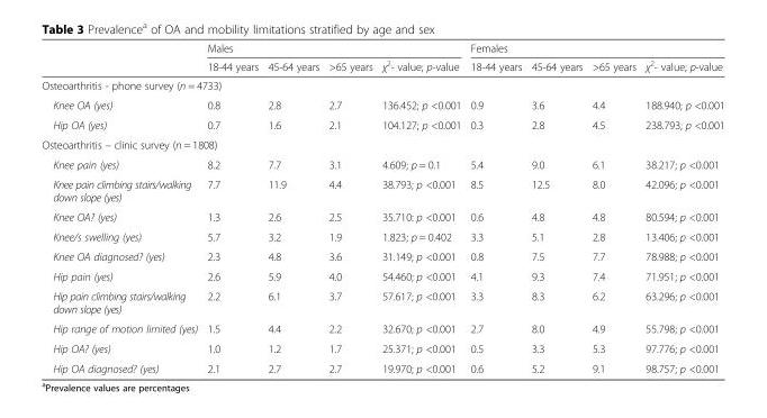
<table><thead><tr><td rowspan="2"></td><td colspan="4">Males</td><td colspan="4">Females</td></tr><tr><td>18-44 years</td><td>45-64 years</td><td>&gt;65 years</td><td>χ<sup>2</sup>- value; p-value</td><td>18-44 years</td><td>45-64 years</td><td>&gt;65 years</td><td>χ<sup>2</sup>- value; p-value</td></tr></thead><tbody><tr><td colspan="9">Osteoarthritis - phone survey (n = 4733)</td></tr><tr><td>Knee OA (yes)</td><td>0.8</td><td>2.8</td><td>2.7</td><td>136.452; p &lt;0.001</td><td>0.9</td><td>3.6</td><td>4.4</td><td>188.940; p &lt;0.001</td></tr><tr><td>Hip OA (yes)</td><td>0.7</td><td>1.6</td><td>2.1</td><td>104.127; p &lt;0.001</td><td>0.3</td><td>2.8</td><td>4.5</td><td>238.793; p &lt;0.001</td></tr><tr><td colspan="9">Osteoarthritis – clinic survey (n = 1808)</td></tr><tr><td>Knee pain (yes)</td><td>8.2</td><td>7.7</td><td>3.1</td><td>4.609; p = 0.1</td><td>5.4</td><td>9.0</td><td>6.1</td><td>38.217; p &lt;0.001</td></tr><tr><td>Knee pain climbing stairs/walking down slope (yes)</td><td>7.7</td><td>11.9</td><td>4.4</td><td>38.793; p &lt;0.001</td><td>8.5</td><td>12.5</td><td>8.0</td><td>42.096; p &lt;0.001</td></tr><tr><td>Knee OA? (yes)</td><td>1.3</td><td>2.6</td><td>2.5</td><td>35.710: p &lt;0.001</td><td>0.6</td><td>4.8</td><td>4.8</td><td>80.594; p &lt;0.001</td></tr><tr><td>Knee/s swelling (yes)</td><td>5.7</td><td>3.2</td><td>1.9</td><td>1.823; p = 0.402</td><td>3.3</td><td>5.1</td><td>2.8</td><td>13.406; p &lt;0.001</td></tr><tr><td>Knee OA diagnosed? (yes)</td><td>2.3</td><td>4.8</td><td>3.6</td><td>31.149; p &lt;0.001</td><td>0.8</td><td>7.5</td><td>7.7</td><td>78.988; p &lt;0.001</td></tr><tr><td>Hip pain (yes)</td><td>2.6</td><td>5.9</td><td>4.0</td><td>54.460; p &lt;0.001</td><td>4.1</td><td>9.3</td><td>7.4</td><td>71.951; p &lt;0.001</td></tr><tr><td>Hip pain climbing stairs/walking down slope (yes)</td><td>2.2</td><td>6.1</td><td>3.7</td><td>57.617; p &lt;0.001</td><td>3.3</td><td>8.3</td><td>6.2</td><td>63.296; p &lt;0.001</td></tr><tr><td>Hip range of motion limited (yes)</td><td>1.5</td><td>4.4</td><td>2.2</td><td>32.670; p &lt;0.001</td><td>2.7</td><td>8.0</td><td>4.9</td><td>55.798; p &lt;0.001</td></tr><tr><td>Hip OA? (yes)</td><td>1.0</td><td>1.2</td><td>1.7</td><td>25.371; p &lt;0.001</td><td>0.5</td><td>3.3</td><td>5.3</td><td>97.776; p &lt;0.001</td></tr><tr><td>Hip OA diagnosed? (yes)</td><td>2.1</td><td>2.7</td><td>2.7</td><td>19.970; p &lt;0.001</td><td>0.6</td><td>5.2</td><td>9.1</td><td>98.757; p &lt;0.001</td></tr></tbody></table>